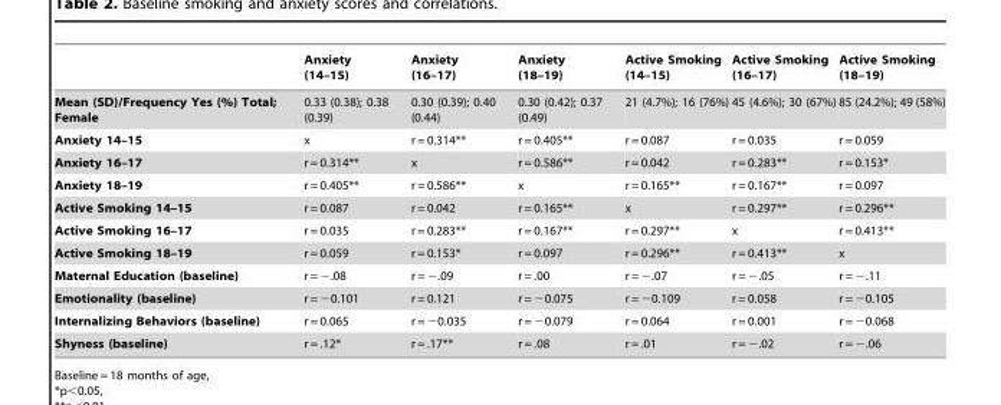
<table><thead><tr><td></td><td>Anxiety (14–15)</td><td>Anxiety (16–17)</td><td>Anxiety (18–19)</td><td>Active Smoking (14–15)</td><td>Active Smoking (16–17)</td><td>Active Smoking (18–19)</td></tr></thead><tbody><tr><td>Mean (SD)/Frequency Yes (%) Total; Female</td><td>0.33 (0.38); 0.38 (0.39)</td><td>0.30 (0.39); 0.40 (0.44)</td><td>0.30 (0.42); 0.37 (0.49)</td><td>21 (4.7%); 16 (76%)</td><td>45 (4.6%); 30 (67%)</td><td>85 (24.2%); 49 (58%)</td></tr><tr><td>Anxiety 14–15</td><td>x</td><td>r = 0.314**</td><td>r = 0.405**</td><td>r = 0.087</td><td>r = 0.035</td><td>r = 0.059</td></tr><tr><td>Anxiety 16–17</td><td>r = 0.314**</td><td>x</td><td>r = 0.586**</td><td>r = 0.042</td><td>r = 0.283**</td><td>r = 0.153*</td></tr><tr><td>Anxiety 18–19</td><td>r = 0.405**</td><td>r = 0.586**</td><td>x</td><td>r = 0.165**</td><td>r = 0.167**</td><td>r = 0.097</td></tr><tr><td>Active Smoking 14–15</td><td>r = 0.087</td><td>r = 0.042</td><td>r = 0.165**</td><td>x</td><td>r = 0.297**</td><td>r = 0.296**</td></tr><tr><td>Active Smoking 16–17</td><td>r = 0.035</td><td>r = 0.283**</td><td>r = 0.167**</td><td>r = 0.297**</td><td>x</td><td>r = 0.413**</td></tr><tr><td>Active Smoking 18–19</td><td>r = 0.059</td><td>r = 0.153*</td><td>r = 0.097</td><td>r = 0.296**</td><td>r = 0.413**</td><td>x</td></tr><tr><td>Maternal Education (baseline)</td><td>r = −.08</td><td>r = −.09</td><td>r = .00</td><td>r = −.07</td><td>r = −.05</td><td>r = −.11</td></tr><tr><td>Emotionality (baseline)</td><td>r = −0.101</td><td>r = 0.121</td><td>r = −0.075</td><td>r = −0.109</td><td>r = 0.058</td><td>r = −0.105</td></tr><tr><td>Internalizing Behaviors (baseline)</td><td>r = 0.065</td><td>r = −0.035</td><td>r = −0.079</td><td>r = 0.064</td><td>r = 0.001</td><td>r = −0.068</td></tr><tr><td>Shyness (baseline)</td><td>r = .12*</td><td>r = .17**</td><td>r = .08</td><td>r = .01</td><td>r = −.02</td><td>r = −.06</td></tr></tbody></table>